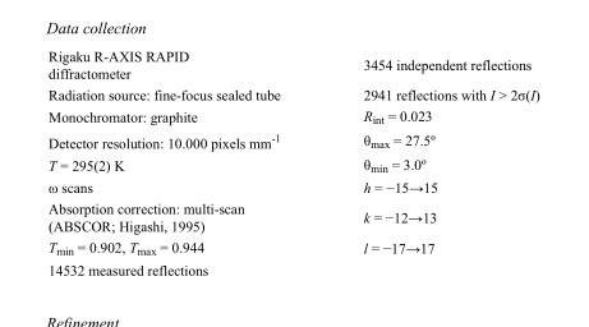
<table><tbody><tr><td>Rigaku R-AXIS RAPID diffractometer</td><td>3454 independent reflections</td></tr><tr><td>Radiation source: fine-focus sealed tube</td><td>2941 reflections with I &gt; 2σ(I)</td></tr><tr><td>Monochromator: graphite</td><td>R<sub>int</sub> = 0.023</td></tr><tr><td>Detector resolution: 10.000 pixels mm<sup>-1</sup></td><td>θ<sub>max</sub> = 27.5º</td></tr><tr><td>T = 295(2) K</td><td>θ<sub>min</sub> = 3.0º</td></tr><tr><td>ω scans</td><td>h = −15→15</td></tr><tr><td>Absorption correction: multi-scan (ABSCOR; Higashi, 1995)</td><td>k = −12→13</td></tr><tr><td>T<sub>min</sub> = 0.902, T<sub>max</sub> = 0.944</td><td>l = −17→17</td></tr><tr><td>14532 measured reflections</td><td></td></tr></tbody></table>